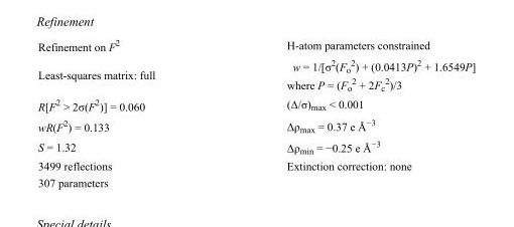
<table><tbody><tr><td>Refinement on F<sup>2</sup></td><td>H-atom parameters constrained</td></tr><tr><td>Least-squares matrix: full</td><td>w = 1/[σ<sup>2</sup>(F<sub>o</sub> <sup>2</sup>) + (0.0413P)<sup>2</sup> + 1.6549P] where P = (F<sub>o</sub> <sup>2</sup> + 2F<sub>c</sub> <sup>2</sup>)/3</td></tr><tr><td>R[F<sup>2</sup> &gt; 2σ(F<sup>2</sup>)] = 0.060</td><td>(Δ/σ)<sub>max</sub> &lt; 0.001</td></tr><tr><td>wR(F<sup>2</sup>) = 0.133</td><td>Δρ<sub>max</sub> = 0.37 e Å<sup>−3</sup></td></tr><tr><td>S = 1.32</td><td>Δρ<sub>min</sub> = −0.25 e Å<sup>−3</sup></td></tr><tr><td>3499 reflections</td><td>Extinction correction: none</td></tr><tr><td>307 parameters</td><td></td></tr></tbody></table>